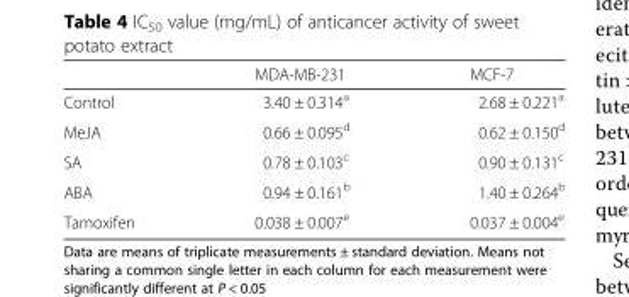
<table><thead><tr><td></td><td>MDA-MB-231</td><td>MCF-7</td></tr></thead><tbody><tr><td>Control</td><td>3.40 ± 0.314<sup>a</sup></td><td>2.68 ± 0.221<sup>a</sup></td></tr><tr><td>MeJA</td><td>0.66 ± 0.095<sup>d</sup></td><td>0.62 ± 0.150<sup>d</sup></td></tr><tr><td>SA</td><td>0.78 ± 0.103<sup>c</sup></td><td>0.90 ± 0.131<sup>c</sup></td></tr><tr><td>ABA</td><td>0.94 ± 0.161<sup>b</sup></td><td>1.40 ± 0.264<sup>b</sup></td></tr><tr><td>Tamoxifen</td><td>0.038 ± 0.007<sup>e</sup></td><td>0.037 ± 0.004<sup>e</sup></td></tr></tbody></table>